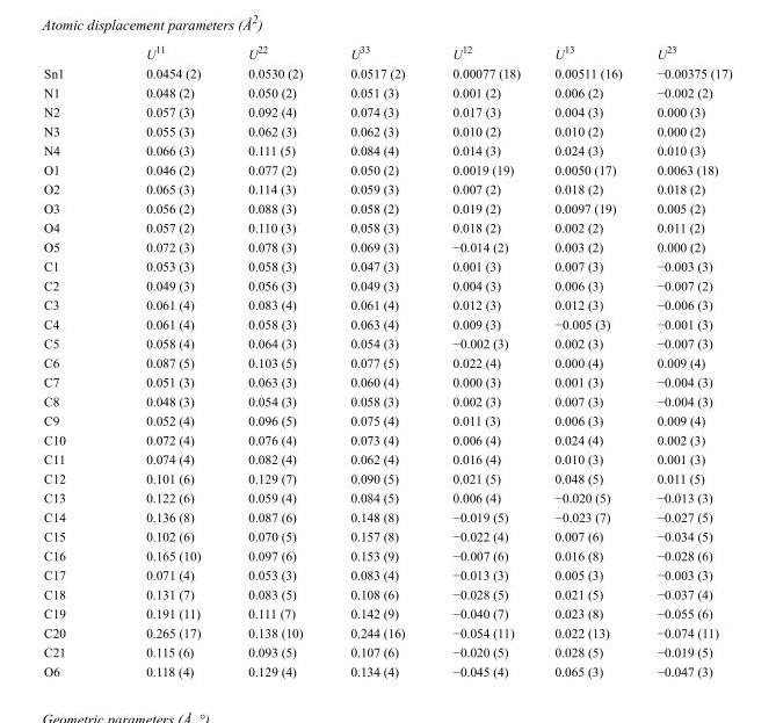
<table><thead><tr><td></td><td>U<sup>11</sup></td><td>U<sup>22</sup></td><td>U<sup>33</sup></td><td>U<sup>12</sup></td><td>U<sup>13</sup></td><td>U<sup>23</sup></td></tr></thead><tbody><tr><td>Sn1</td><td>0.0454 (2)</td><td>0.0530 (2)</td><td>0.0517 (2)</td><td>0.00077 (18)</td><td>0.00511 (16)</td><td>−0.00375 (17)</td></tr><tr><td>N1</td><td>0.048 (2)</td><td>0.050 (2)</td><td>0.051 (3)</td><td>0.001 (2)</td><td>0.006 (2)</td><td>−0.002 (2)</td></tr><tr><td>N2</td><td>0.057 (3)</td><td>0.092 (4)</td><td>0.074 (3)</td><td>0.017 (3)</td><td>0.004 (3)</td><td>0.000 (3)</td></tr><tr><td>N3</td><td>0.055 (3)</td><td>0.062 (3)</td><td>0.062 (3)</td><td>0.010 (2)</td><td>0.010 (2)</td><td>0.000 (2)</td></tr><tr><td>N4</td><td>0.066 (3)</td><td>0.111 (5)</td><td>0.084 (4)</td><td>0.014 (3)</td><td>0.024 (3)</td><td>0.010 (3)</td></tr><tr><td>O1</td><td>0.046 (2)</td><td>0.077 (2)</td><td>0.050 (2)</td><td>0.0019 (19)</td><td>0.0050 (17)</td><td>0.0063 (18)</td></tr><tr><td>O2</td><td>0.065 (3)</td><td>0.114 (3)</td><td>0.059 (3)</td><td>0.007 (2)</td><td>0.018 (2)</td><td>0.018 (2)</td></tr><tr><td>O3</td><td>0.056 (2)</td><td>0.088 (3)</td><td>0.058 (2)</td><td>0.019 (2)</td><td>0.0097 (19)</td><td>0.005 (2)</td></tr><tr><td>O4</td><td>0.057 (2)</td><td>0.110 (3)</td><td>0.058 (3)</td><td>0.018 (2)</td><td>0.002 (2)</td><td>0.011 (2)</td></tr><tr><td>O5</td><td>0.072 (3)</td><td>0.078 (3)</td><td>0.069 (3)</td><td>−0.014 (2)</td><td>0.003 (2)</td><td>0.000 (2)</td></tr><tr><td>C1</td><td>0.053 (3)</td><td>0.058 (3)</td><td>0.047 (3)</td><td>0.001 (3)</td><td>0.007 (3)</td><td>−0.003 (3)</td></tr><tr><td>C2</td><td>0.049 (3)</td><td>0.056 (3)</td><td>0.049 (3)</td><td>0.004 (3)</td><td>0.006 (3)</td><td>−0.007 (2)</td></tr><tr><td>C3</td><td>0.061 (4)</td><td>0.083 (4)</td><td>0.061 (4)</td><td>0.012 (3)</td><td>0.012 (3)</td><td>−0.006 (3)</td></tr><tr><td>C4</td><td>0.061 (4)</td><td>0.058 (3)</td><td>0.063 (4)</td><td>0.009 (3)</td><td>−0.005 (3)</td><td>−0.001 (3)</td></tr><tr><td>C5</td><td>0.058 (4)</td><td>0.064 (3)</td><td>0.054 (3)</td><td>−0.002 (3)</td><td>0.002 (3)</td><td>−0.007 (3)</td></tr><tr><td>C6</td><td>0.087 (5)</td><td>0.103 (5)</td><td>0.077 (5)</td><td>0.022 (4)</td><td>0.000 (4)</td><td>0.009 (4)</td></tr><tr><td>C7</td><td>0.051 (3)</td><td>0.063 (3)</td><td>0.060 (4)</td><td>0.000 (3)</td><td>0.001 (3)</td><td>−0.004 (3)</td></tr><tr><td>C8</td><td>0.048 (3)</td><td>0.054 (3)</td><td>0.058 (3)</td><td>0.002 (3)</td><td>0.007 (3)</td><td>−0.004 (3)</td></tr><tr><td>C9</td><td>0.052 (4)</td><td>0.096 (5)</td><td>0.075 (4)</td><td>0.011 (3)</td><td>0.006 (3)</td><td>0.009 (4)</td></tr><tr><td>C10</td><td>0.072 (4)</td><td>0.076 (4)</td><td>0.073 (4)</td><td>0.006 (4)</td><td>0.024 (4)</td><td>0.002 (3)</td></tr><tr><td>C11</td><td>0.074 (4)</td><td>0.082 (4)</td><td>0.062 (4)</td><td>0.016 (4)</td><td>0.010 (3)</td><td>0.001 (3)</td></tr><tr><td>C12</td><td>0.101 (6)</td><td>0.129 (7)</td><td>0.090 (5)</td><td>0.021 (5)</td><td>0.048 (5)</td><td>0.011 (5)</td></tr><tr><td>C13</td><td>0.122 (6)</td><td>0.059 (4)</td><td>0.084 (5)</td><td>0.006 (4)</td><td>−0.020 (5)</td><td>−0.013 (3)</td></tr><tr><td>C14</td><td>0.136 (8)</td><td>0.087 (6)</td><td>0.148 (8)</td><td>−0.019 (5)</td><td>−0.023 (7)</td><td>−0.027 (5)</td></tr><tr><td>C15</td><td>0.102 (6)</td><td>0.070 (5)</td><td>0.157 (8)</td><td>−0.022 (4)</td><td>0.007 (6)</td><td>−0.034 (5)</td></tr><tr><td>C16</td><td>0.165 (10)</td><td>0.097 (6)</td><td>0.153 (9)</td><td>−0.007 (6)</td><td>0.016 (8)</td><td>−0.028 (6)</td></tr><tr><td>C17</td><td>0.071 (4)</td><td>0.053 (3)</td><td>0.083 (4)</td><td>−0.013 (3)</td><td>0.005 (3)</td><td>−0.003 (3)</td></tr><tr><td>C18</td><td>0.131 (7)</td><td>0.083 (5)</td><td>0.108 (6)</td><td>−0.028 (5)</td><td>0.021 (5)</td><td>−0.037 (4)</td></tr><tr><td>C19</td><td>0.191 (11)</td><td>0.111 (7)</td><td>0.142 (9)</td><td>−0.040 (7)</td><td>0.023 (8)</td><td>−0.055 (6)</td></tr><tr><td>C20</td><td>0.265 (17)</td><td>0.138 (10)</td><td>0.244 (16)</td><td>−0.054 (11)</td><td>0.022 (13)</td><td>−0.074 (11)</td></tr><tr><td>C21</td><td>0.115 (6)</td><td>0.093 (5)</td><td>0.107 (6)</td><td>−0.020 (5)</td><td>0.028 (5)</td><td>−0.019 (5)</td></tr><tr><td>O6</td><td>0.118 (4)</td><td>0.129 (4)</td><td>0.134 (4)</td><td>−0.045 (4)</td><td>0.065 (3)</td><td>−0.047 (3)</td></tr></tbody></table>